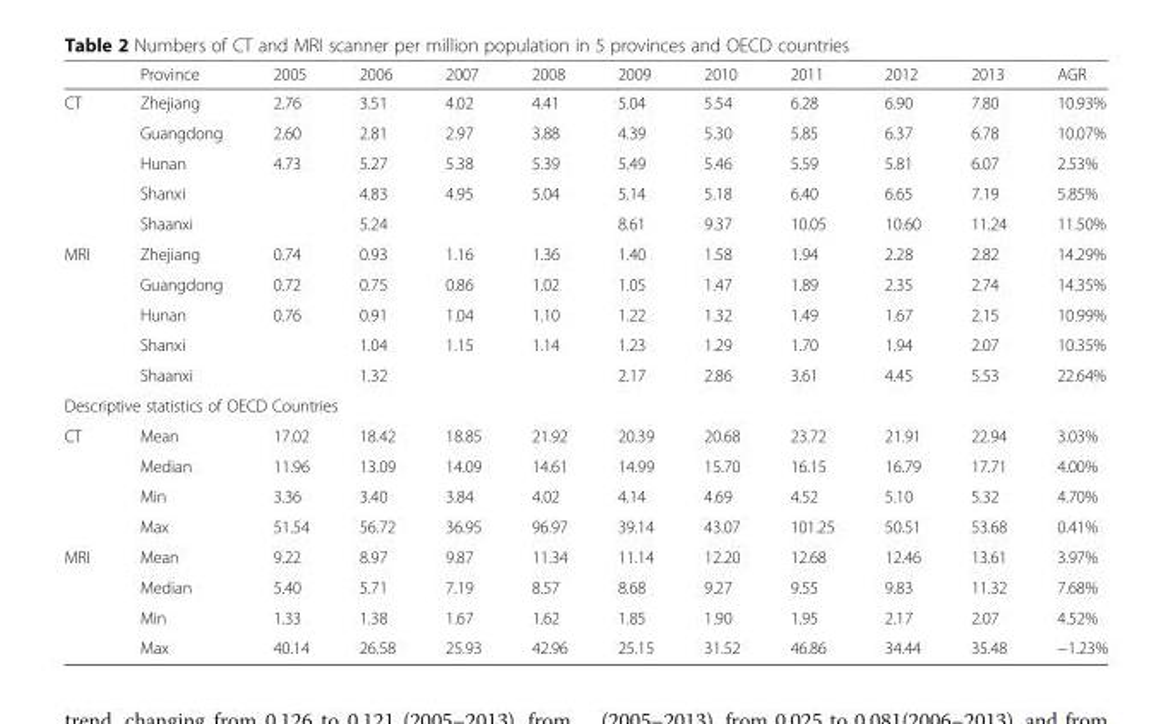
<table><thead><tr><td></td><td>Province</td><td>2005</td><td>2006</td><td>2007</td><td>2008</td><td>2009</td><td>2010</td><td>2011</td><td>2012</td><td>2013</td><td>AGR</td></tr></thead><tbody><tr><td rowspan="5">CT</td><td>Zhejiang</td><td>2.76</td><td>3.51</td><td>4.02</td><td>4.41</td><td>5.04</td><td>5.54</td><td>6.28</td><td>6.90</td><td>7.80</td><td>10.93%</td></tr><tr><td>Guangdong</td><td>2.60</td><td>2.81</td><td>2.97</td><td>3.88</td><td>4.39</td><td>5.30</td><td>5.85</td><td>6.37</td><td>6.78</td><td>10.07%</td></tr><tr><td>Hunan</td><td>4.73</td><td>5.27</td><td>5.38</td><td>5.39</td><td>5.49</td><td>5.46</td><td>5.59</td><td>5.81</td><td>6.07</td><td>2.53%</td></tr><tr><td>Shanxi</td><td></td><td>4.83</td><td>4.95</td><td>5.04</td><td>5.14</td><td>5.18</td><td>6.40</td><td>6.65</td><td>7.19</td><td>5.85%</td></tr><tr><td>Shaanxi</td><td></td><td>5.24</td><td></td><td></td><td>8.61</td><td>9.37</td><td>10.05</td><td>10.60</td><td>11.24</td><td>11.50%</td></tr><tr><td rowspan="5">MRI</td><td>Zhejiang</td><td>0.74</td><td>0.93</td><td>1.16</td><td>1.36</td><td>1.40</td><td>1.58</td><td>1.94</td><td>2.28</td><td>2.82</td><td>14.29%</td></tr><tr><td>Guangdong</td><td>0.72</td><td>0.75</td><td>0.86</td><td>1.02</td><td>1.05</td><td>1.47</td><td>1.89</td><td>2.35</td><td>2.74</td><td>14.35%</td></tr><tr><td>Hunan</td><td>0.76</td><td>0.91</td><td>1.04</td><td>1.10</td><td>1.22</td><td>1.32</td><td>1.49</td><td>1.67</td><td>2.15</td><td>10.99%</td></tr><tr><td>Shanxi</td><td></td><td>1.04</td><td>1.15</td><td>1.14</td><td>1.23</td><td>1.29</td><td>1.70</td><td>1.94</td><td>2.07</td><td>10.35%</td></tr><tr><td>Shaanxi</td><td></td><td>1.32</td><td></td><td></td><td>2.17</td><td>2.86</td><td>3.61</td><td>4.45</td><td>5.53</td><td>22.64%</td></tr><tr><td colspan="12">Descriptive statistics of OECD Countries</td></tr><tr><td rowspan="4">CT</td><td>Mean</td><td>17.02</td><td>18.42</td><td>18.85</td><td>21.92</td><td>20.39</td><td>20.68</td><td>23.72</td><td>21.91</td><td>22.94</td><td>3.03%</td></tr><tr><td>Median</td><td>11.96</td><td>13.09</td><td>14.09</td><td>14.61</td><td>14.99</td><td>15.70</td><td>16.15</td><td>16.79</td><td>17.71</td><td>4.00%</td></tr><tr><td>Min</td><td>3.36</td><td>3.40</td><td>3.84</td><td>4.02</td><td>4.14</td><td>4.69</td><td>4.52</td><td>5.10</td><td>5.32</td><td>4.70%</td></tr><tr><td>Max</td><td>51.54</td><td>56.72</td><td>36.95</td><td>96.97</td><td>39.14</td><td>43.07</td><td>101.25</td><td>50.51</td><td>53.68</td><td>0.41%</td></tr><tr><td rowspan="4">MRI</td><td>Mean</td><td>9.22</td><td>8.97</td><td>9.87</td><td>11.34</td><td>11.14</td><td>12.20</td><td>12.68</td><td>12.46</td><td>13.61</td><td>3.97%</td></tr><tr><td>Median</td><td>5.40</td><td>5.71</td><td>7.19</td><td>8.57</td><td>8.68</td><td>9.27</td><td>9.55</td><td>9.83</td><td>11.32</td><td>7.68%</td></tr><tr><td>Min</td><td>1.33</td><td>1.38</td><td>1.67</td><td>1.62</td><td>1.85</td><td>1.90</td><td>1.95</td><td>2.17</td><td>2.07</td><td>4.52%</td></tr><tr><td>Max</td><td>40.14</td><td>26.58</td><td>25.93</td><td>42.96</td><td>25.15</td><td>31.52</td><td>46.86</td><td>34.44</td><td>35.48</td><td>−1.23%</td></tr></tbody></table>